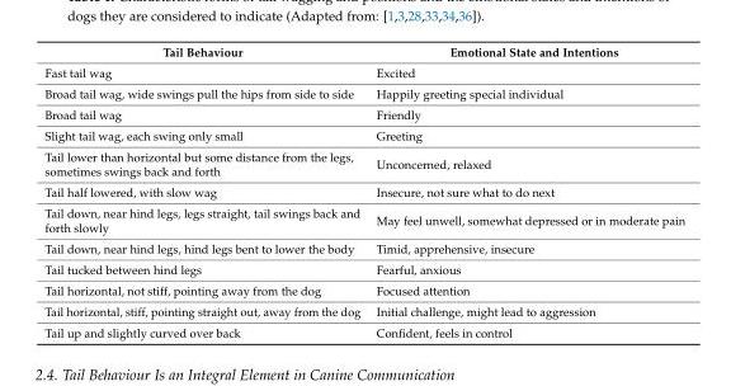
<table><thead><tr><td>Tail Behaviour</td><td>Emotional State and Intentions</td></tr></thead><tbody><tr><td>Fast tail wag</td><td>Excited</td></tr><tr><td>Broad tail wag, wide swings pull the hips from side to side</td><td>Happily greeting special individual</td></tr><tr><td>Broad tail wag</td><td>Friendly</td></tr><tr><td>Slight tail wag, each swing only small</td><td>Greeting</td></tr><tr><td>Tail lower than horizontal but some distance from the legs, sometimes swings back and forth</td><td>Unconcerned, relaxed</td></tr><tr><td>Tail half lowered, with slow wag</td><td>Insecure, not sure what to do next</td></tr><tr><td>Tail down, near hind legs, legs straight, tail swings back and forth slowly</td><td>May feel unwell, somewhat depressed or in moderate pain</td></tr><tr><td>Tail down, near hind legs, hind legs bent to lower the body</td><td>Timid, apprehensive, insecure</td></tr><tr><td>Tail tucked between hind legs</td><td>Fearful, anxious</td></tr><tr><td>Tail horizontal, not stiff, pointing away from the dog</td><td>Focused attention</td></tr><tr><td>Tail horizontal, stiff, pointing straight out, away from the dog</td><td>Initial challenge, might lead to aggression</td></tr><tr><td>Tail up and slightly curved over back</td><td>Confident, feels in control</td></tr></tbody></table>